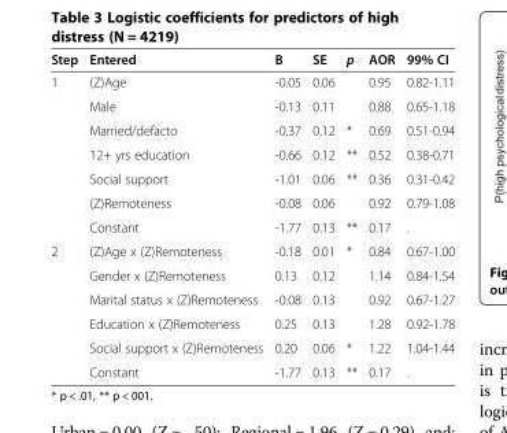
<table><thead><tr><td>Step</td><td>Entered</td><td>B</td><td>SE</td><td>p</td><td>AOR</td><td>99% CI</td></tr></thead><tbody><tr><td rowspan="7">1</td><td>(Z)Age</td><td>-0.05</td><td>0.06</td><td></td><td>0.95</td><td>0.82-1.11</td></tr><tr><td>Male</td><td>-0.13</td><td>0.11</td><td></td><td>0.88</td><td>0.65-1.18</td></tr><tr><td>Married/defacto</td><td>-0.37</td><td>0.12</td><td>*</td><td>0.69</td><td>0.51-0.94</td></tr><tr><td>12+ yrs education</td><td>-0.66</td><td>0.12</td><td>**</td><td>0.52</td><td>0.38-0.71</td></tr><tr><td>Social support</td><td>-1.01</td><td>0.06</td><td>**</td><td>0.36</td><td>0.31-0.42</td></tr><tr><td>(Z)Remoteness</td><td>-0.08</td><td>0.06</td><td></td><td>0.92</td><td>0.79-1.08</td></tr><tr><td>Constant</td><td>-1.77</td><td>0.13</td><td>**</td><td>0.17</td><td>.</td></tr><tr><td rowspan="6">2</td><td>(Z)Age x (Z)Remoteness</td><td>-0.18</td><td>0.01</td><td>*</td><td>0.84</td><td>0.67-1.00</td></tr><tr><td>Gender x (Z)Remoteness</td><td>0.13</td><td>0.12</td><td></td><td>1.14</td><td>0.84-1.54</td></tr><tr><td>Marital status x (Z)Remoteness</td><td>-0.08</td><td>0.13</td><td></td><td>0.92</td><td>0.67-1.27</td></tr><tr><td>Education x (Z)Remoteness</td><td>0.25</td><td>0.13</td><td></td><td>1.28</td><td>0.92-1.78</td></tr><tr><td>Social support x (Z)Remoteness</td><td>0.20</td><td>0.06</td><td>*</td><td>1.22</td><td>1.04-1.44</td></tr><tr><td>Constant</td><td>-1.77</td><td>0.13</td><td>**</td><td>0.17</td><td>.</td></tr></tbody></table>